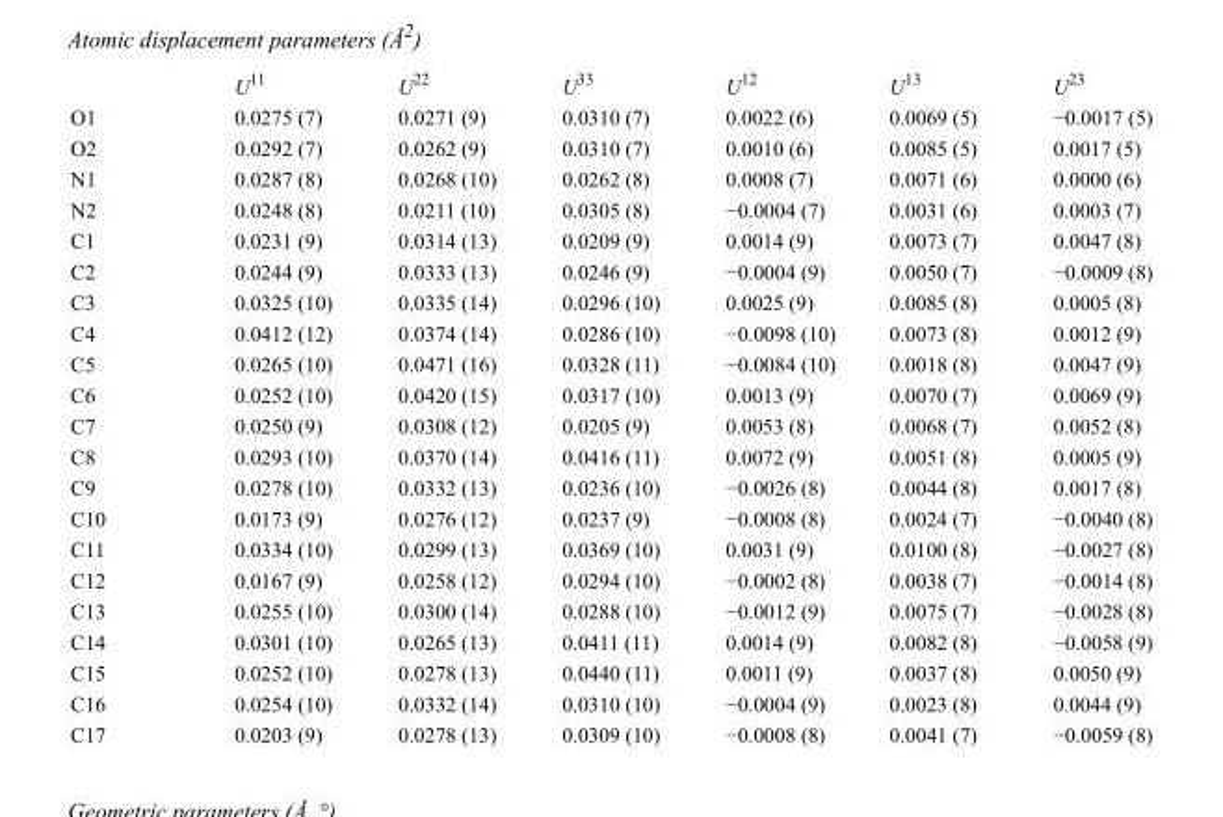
<table><thead><tr><td></td><td>U<sup>11</sup></td><td>U<sup>22</sup></td><td>U<sup>33</sup></td><td>U<sup>12</sup></td><td>U<sup>13</sup></td><td>U<sup>23</sup></td></tr></thead><tbody><tr><td>O1</td><td>0.0275 (7)</td><td>0.0271 (9)</td><td>0.0310 (7)</td><td>0.0022 (6)</td><td>0.0069 (5)</td><td>−0.0017 (5)</td></tr><tr><td>O2</td><td>0.0292 (7)</td><td>0.0262 (9)</td><td>0.0310 (7)</td><td>0.0010 (6)</td><td>0.0085 (5)</td><td>0.0017 (5)</td></tr><tr><td>N1</td><td>0.0287 (8)</td><td>0.0268 (10)</td><td>0.0262 (8)</td><td>0.0008 (7)</td><td>0.0071 (6)</td><td>0.0000 (6)</td></tr><tr><td>N2</td><td>0.0248 (8)</td><td>0.0211 (10)</td><td>0.0305 (8)</td><td>−0.0004 (7)</td><td>0.0031 (6)</td><td>0.0003 (7)</td></tr><tr><td>C1</td><td>0.0231 (9)</td><td>0.0314 (13)</td><td>0.0209 (9)</td><td>0.0014 (9)</td><td>0.0073 (7)</td><td>0.0047 (8)</td></tr><tr><td>C2</td><td>0.0244 (9)</td><td>0.0333 (13)</td><td>0.0246 (9)</td><td>−0.0004 (9)</td><td>0.0050 (7)</td><td>−0.0009 (8)</td></tr><tr><td>C3</td><td>0.0325 (10)</td><td>0.0335 (14)</td><td>0.0296 (10)</td><td>0.0025 (9)</td><td>0.0085 (8)</td><td>0.0005 (8)</td></tr><tr><td>C4</td><td>0.0412 (12)</td><td>0.0374 (14)</td><td>0.0286 (10)</td><td>−0.0098 (10)</td><td>0.0073 (8)</td><td>0.0012 (9)</td></tr><tr><td>C5</td><td>0.0265 (10)</td><td>0.0471 (16)</td><td>0.0328 (11)</td><td>−0.0084 (10)</td><td>0.0018 (8)</td><td>0.0047 (9)</td></tr><tr><td>C6</td><td>0.0252 (10)</td><td>0.0420 (15)</td><td>0.0317 (10)</td><td>0.0013 (9)</td><td>0.0070 (7)</td><td>0.0069 (9)</td></tr><tr><td>C7</td><td>0.0250 (9)</td><td>0.0308 (12)</td><td>0.0205 (9)</td><td>0.0053 (8)</td><td>0.0068 (7)</td><td>0.0052 (8)</td></tr><tr><td>C8</td><td>0.0293 (10)</td><td>0.0370 (14)</td><td>0.0416 (11)</td><td>0.0072 (9)</td><td>0.0051 (8)</td><td>0.0005 (9)</td></tr><tr><td>C9</td><td>0.0278 (10)</td><td>0.0332 (13)</td><td>0.0236 (10)</td><td>−0.0026 (8)</td><td>0.0044 (8)</td><td>0.0017 (8)</td></tr><tr><td>C10</td><td>0.0173 (9)</td><td>0.0276 (12)</td><td>0.0237 (9)</td><td>−0.0008 (8)</td><td>0.0024 (7)</td><td>−0.0040 (8)</td></tr><tr><td>C11</td><td>0.0334 (10)</td><td>0.0299 (13)</td><td>0.0369 (10)</td><td>0.0031 (9)</td><td>0.0100 (8)</td><td>−0.0027 (8)</td></tr><tr><td>C12</td><td>0.0167 (9)</td><td>0.0258 (12)</td><td>0.0294 (10)</td><td>−0.0002 (8)</td><td>0.0038 (7)</td><td>−0.0014 (8)</td></tr><tr><td>C13</td><td>0.0255 (10)</td><td>0.0300 (14)</td><td>0.0288 (10)</td><td>−0.0012 (9)</td><td>0.0075 (7)</td><td>−0.0028 (8)</td></tr><tr><td>C14</td><td>0.0301 (10)</td><td>0.0265 (13)</td><td>0.0411 (11)</td><td>0.0014 (9)</td><td>0.0082 (8)</td><td>−0.0058 (9)</td></tr><tr><td>C15</td><td>0.0252 (10)</td><td>0.0278 (13)</td><td>0.0440 (11)</td><td>0.0011 (9)</td><td>0.0037 (8)</td><td>0.0050 (9)</td></tr><tr><td>C16</td><td>0.0254 (10)</td><td>0.0332 (14)</td><td>0.0310 (10)</td><td>−0.0004 (9)</td><td>0.0023 (8)</td><td>0.0044 (9)</td></tr><tr><td>C17</td><td>0.0203 (9)</td><td>0.0278 (13)</td><td>0.0309 (10)</td><td>−0.0008 (8)</td><td>0.0041 (7)</td><td>−0.0059 (8)</td></tr></tbody></table>